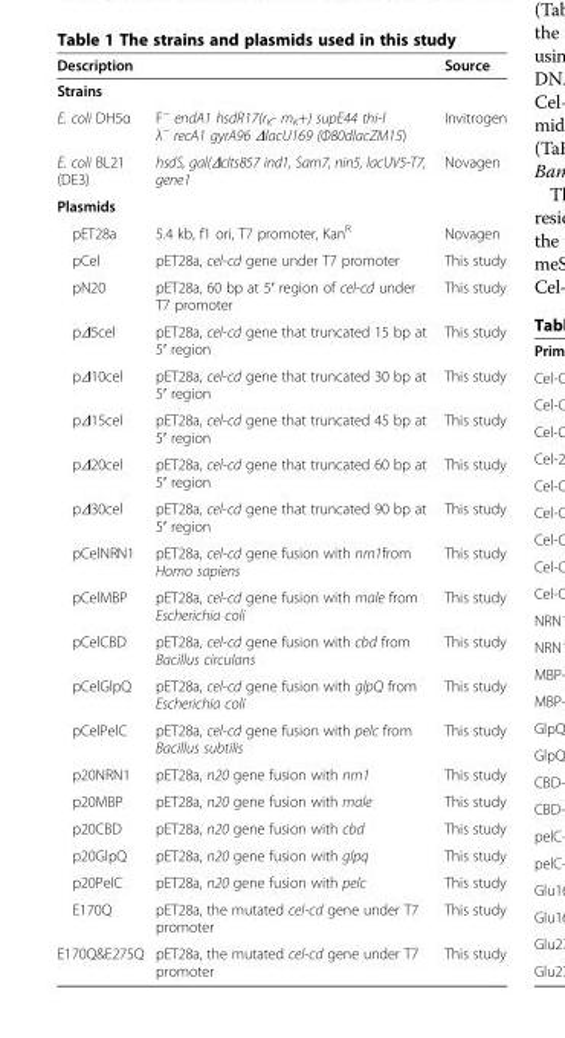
<table><thead><tr><td>Description</td><td></td><td>Source</td></tr></thead><tbody><tr><td colspan="3">Strains</td></tr><tr><td>E. coli DH5α</td><td>F<sup>−</sup> endA1 hsdR17(r<sub>K</sub>- m<sub>K</sub>+) supE44 thi-l λ<sup>−</sup> recA1 gyrA96 ΔlacU169 (Φ80dlacZM15)</td><td>Invitrogen</td></tr><tr><td>E. coli BL21 (DE3)</td><td>hsdS, gal(ΔcIts857 ind1, Sam7, nin5, lacUV5-T7, gene1</td><td>Novagen</td></tr><tr><td colspan="3">Plasmids</td></tr><tr><td>pET28a</td><td>5.4 kb, f1 ori, T7 promoter, Kan<sup>R</sup></td><td>Novagen</td></tr><tr><td>pCel</td><td>pET28a, cel-cd gene under T7 promoter</td><td>This study</td></tr><tr><td>pN20</td><td>pET28a, 60 bp at 5′ region of cel-cd under T7 promoter</td><td>This study</td></tr><tr><td>pΔ5cel</td><td>pET28a, cel-cd gene that truncated 15 bp at 5′ region</td><td>This study</td></tr><tr><td>pΔ10cel</td><td>pET28a, cel-cd gene that truncated 30 bp at 5′ region</td><td>This study</td></tr><tr><td>pΔ15cel</td><td>pET28a, cel-cd gene that truncated 45 bp at 5′ region</td><td>This study</td></tr><tr><td>pΔ20cel</td><td>pET28a, cel-cd gene that truncated 60 bp at 5′ region</td><td>This study</td></tr><tr><td>pΔ30cel</td><td>pET28a, cel-cd gene that truncated 90 bp at 5′ region</td><td>This study</td></tr><tr><td>pCelNRN1</td><td>pET28a, cel-cd gene fusion with nrn1from Homo sapiens</td><td>This study</td></tr><tr><td>pCelMBP</td><td>pET28a, cel-cd gene fusion with male from Escherichia coli</td><td>This study</td></tr><tr><td>pCelCBD</td><td>pET28a, cel-cd gene fusion with cbd from Bacillus circulans</td><td>This study</td></tr><tr><td>pCelGlpQ</td><td>pET28a, cel-cd gene fusion with glpQ from Escherichia coli</td><td>This study</td></tr><tr><td>pCelPelC</td><td>pET28a, cel-cd gene fusion with pelc from Bacillus subtilis</td><td>This study</td></tr><tr><td>p20NRN1</td><td>pET28a, n20 gene fusion with nrn1</td><td>This study</td></tr><tr><td>p20MBP</td><td>pET28a, n20 gene fusion with male</td><td>This study</td></tr><tr><td>p20CBD</td><td>pET28a, n20 gene fusion with cbd</td><td>This study</td></tr><tr><td>p20GlpQ</td><td>pET28a, n20 gene fusion with glpq</td><td>This study</td></tr><tr><td>p20PelC</td><td>pET28a, n20 gene fusion with pelc</td><td>This study</td></tr><tr><td>E170Q</td><td>pET28a, the mutated cel-cd gene under T7 promoter</td><td>This study</td></tr><tr><td>E170Q&amp;E275Q</td><td>pET28a, the mutated cel-cd gene under T7 promoter</td><td>This study</td></tr></tbody></table>